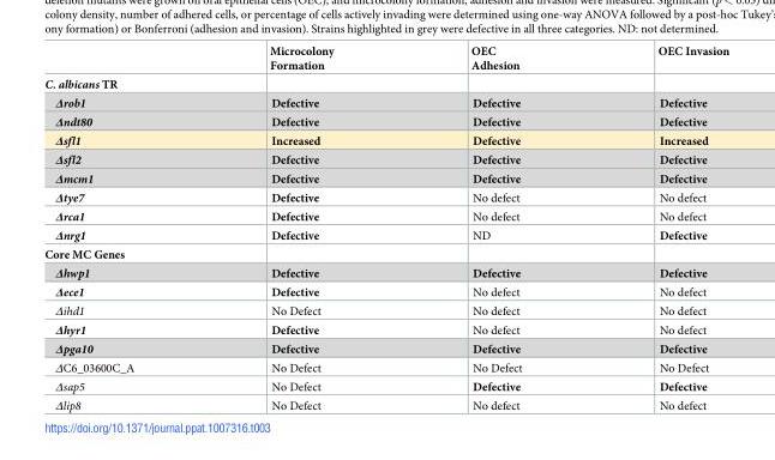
<table><thead><tr><td></td><td>Microcolony Formation</td><td>OEC Adhesion</td><td>OEC Invasion</td></tr></thead><tbody><tr><td colspan="4">C. albicans TR</td></tr><tr><td>Δrob1</td><td>Defective</td><td>Defective</td><td>Defective</td></tr><tr><td>Δndt80</td><td>Defective</td><td>Defective</td><td>Defective</td></tr><tr><td>Δsfl1</td><td>Increased</td><td>Defective</td><td>Increased</td></tr><tr><td>Δsfl2</td><td>Defective</td><td>Defective</td><td>Defective</td></tr><tr><td>Δmcm1</td><td>Defective</td><td>Defective</td><td>Defective</td></tr><tr><td>Δtye7</td><td>Defective</td><td>No defect</td><td>No defect</td></tr><tr><td>Δrca1</td><td>Defective</td><td>No defect</td><td>No defect</td></tr><tr><td>Δnrg1</td><td>Defective</td><td>ND</td><td>Defective</td></tr><tr><td colspan="4">Core MC Genes</td></tr><tr><td>Δhwp1</td><td>Defective</td><td>Defective</td><td>Defective</td></tr><tr><td>Δece1</td><td>Defective</td><td>No defect</td><td>No defect</td></tr><tr><td>Δihd1</td><td>No Defect</td><td>No defect</td><td>No defect</td></tr><tr><td>Δhyr1</td><td>Defective</td><td>No defect</td><td>No defect</td></tr><tr><td>Δpga10</td><td>Defective</td><td>Defective</td><td>Defective</td></tr><tr><td>ΔC6_03600C_A</td><td>No Defect</td><td>No Defect</td><td>No Defect</td></tr><tr><td>Δsap5</td><td>No Defect</td><td>Defective</td><td>Defective</td></tr><tr><td>Δlip8</td><td>No Defect</td><td>No defect</td><td>No defect</td></tr></tbody></table>